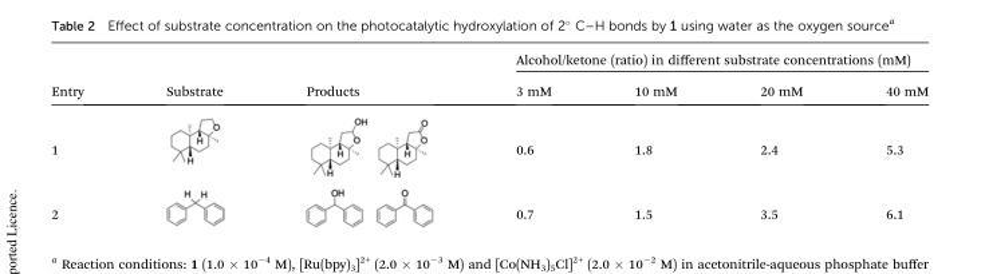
<table><thead><tr><td rowspan="2">Entry</td><td rowspan="2">Substrate</td><td rowspan="2">Products</td><td colspan="4">Alcohol/ketone (ratio) in different substrate concentrations (mM)</td></tr><tr><td>3 mM</td><td>10 mM</td><td>20 mM</td><td>40 mM</td></tr></thead><tbody><tr><td>1</td><td></td><td></td><td>0.6</td><td>1.8</td><td>2.4</td><td>5.3</td></tr><tr><td>2</td><td></td><td></td><td>0.7</td><td>1.5</td><td>3.5</td><td>6.1</td></tr></tbody></table>